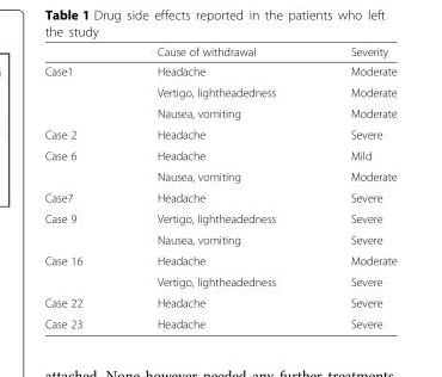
<table><thead><tr><td></td><td>Cause of withdrawal</td><td>Severity</td></tr></thead><tbody><tr><td rowspan="3">Case1</td><td>Headache</td><td>Moderate</td></tr><tr><td>Vertigo, lightheadedness</td><td>Moderate</td></tr><tr><td>Nausea, vomiting</td><td>Moderate</td></tr><tr><td>Case 2</td><td>Headache</td><td>Severe</td></tr><tr><td rowspan="2">Case 6</td><td>Headache</td><td>Mild</td></tr><tr><td>Nausea, vomiting</td><td>Moderate</td></tr><tr><td>Case7</td><td>Headache</td><td>Severe</td></tr><tr><td rowspan="2">Case 9</td><td>Vertigo, lightheadedness</td><td>Severe</td></tr><tr><td>Nausea, vomiting</td><td>Severe</td></tr><tr><td rowspan="2">Case 16</td><td>Headache</td><td>Moderate</td></tr><tr><td>Vertigo, lightheadedness</td><td>Severe</td></tr><tr><td>Case 22</td><td>Headache</td><td>Severe</td></tr><tr><td>Case 23</td><td>Headache</td><td>Severe</td></tr></tbody></table>